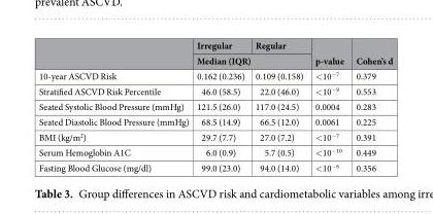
<table><thead><tr><td rowspan="2"></td><td>Irregular</td><td>Regular</td><td rowspan="2">p-value</td><td rowspan="2">Cohen’s d</td></tr><tr><td colspan="2">Median (IQR)</td></tr></thead><tbody><tr><td>10-year ASCVD Risk</td><td>0.162 (0.236)</td><td>0.109 (0.158)</td><td>&lt;10<sup>−7</sup></td><td>0.379</td></tr><tr><td>Stratified ASCVD Risk Percentile</td><td>46.0 (58.5)</td><td>22.0 (46.0)</td><td>&lt;10<sup>−9</sup></td><td>0.553</td></tr><tr><td>Seated Systolic Blood Pressure (mmHg)</td><td>121.5 (26.0)</td><td>117.0 (24.5)</td><td>0.0004</td><td>0.283</td></tr><tr><td>Seated Diastolic Blood Pressure (mmHg)</td><td>68.5 (14.9)</td><td>66.5 (12.0)</td><td>0.0061</td><td>0.225</td></tr><tr><td>BMI (kg/m<sup>2</sup>)</td><td>29.7 (7.7)</td><td>27.0 (7.2)</td><td>&lt;10<sup>−7</sup></td><td>0.391</td></tr><tr><td>Serum Hemoglobin A1C</td><td>6.0 (0.9)</td><td>5.7 (0.5)</td><td>&lt;10<sup>−10</sup></td><td>0.449</td></tr><tr><td>Fasting Blood Glucose (mg/dl)</td><td>99.0 (23.0)</td><td>94.0 (14.0)</td><td>&lt;10<sup>−6</sup></td><td>0.356</td></tr></tbody></table>